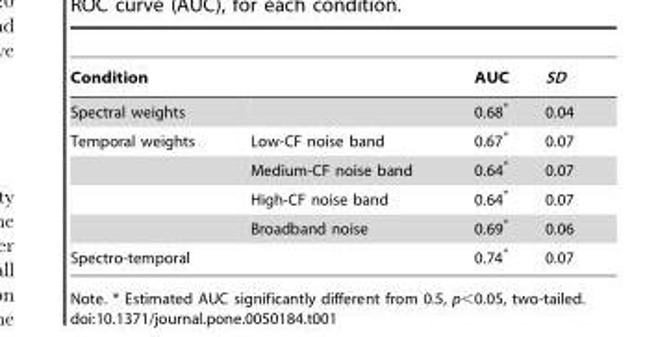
<table><thead><tr><td>Condition</td><td></td><td>AUC</td><td>SD</td></tr></thead><tbody><tr><td>Spectral weights</td><td></td><td>0.68*</td><td>0.04</td></tr><tr><td rowspan="4">Temporal weights</td><td>Low-CF noise band</td><td>0.67*</td><td>0.07</td></tr><tr><td>Medium-CF noise band</td><td>0.64*</td><td>0.07</td></tr><tr><td>High-CF noise band</td><td>0.64*</td><td>0.07</td></tr><tr><td>Broadband noise</td><td>0.69*</td><td>0.06</td></tr><tr><td>Spectro-temporal</td><td></td><td>0.74*</td><td>0.07</td></tr></tbody></table>